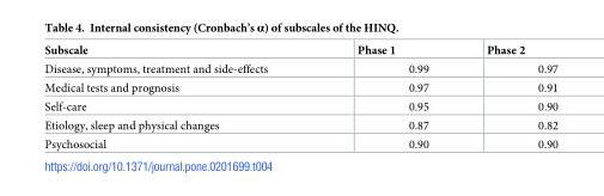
<table><thead><tr><td>Subscale</td><td>Phase 1</td><td>Phase 2</td></tr></thead><tbody><tr><td>Disease, symptoms, treatment and side-effects</td><td>0.99</td><td>0.97</td></tr><tr><td>Medical tests and prognosis</td><td>0.97</td><td>0.91</td></tr><tr><td>Self-care</td><td>0.95</td><td>0.90</td></tr><tr><td>Etiology, sleep and physical changes</td><td>0.87</td><td>0.82</td></tr><tr><td>Psychosocial</td><td>0.90</td><td>0.90</td></tr></tbody></table>